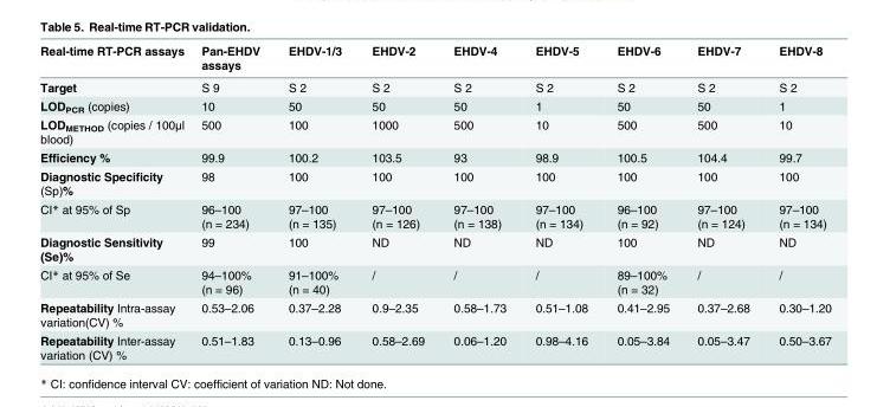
<table><thead><tr><td>Real-time RT-PCR assays</td><td>Pan-EHDV assays</td><td>EHDV-1/3</td><td>EHDV-2</td><td>EHDV-4</td><td>EHDV-5</td><td>EHDV-6</td><td>EHDV-7</td><td>EHDV-8</td></tr></thead><tbody><tr><td>Target</td><td>S 9</td><td>S 2</td><td>S 2</td><td>S 2</td><td>S 2</td><td>S 2</td><td>S 2</td><td>S 2</td></tr><tr><td>LOD<sub>PCR</sub> (copies)</td><td>10</td><td>50</td><td>50</td><td>50</td><td>1</td><td>50</td><td>50</td><td>1</td></tr><tr><td>LOD<sub>METHOD</sub> (copies / 100μl blood)</td><td>500</td><td>100</td><td>1000</td><td>500</td><td>10</td><td>500</td><td>500</td><td>10</td></tr><tr><td>Efficiency %</td><td>99.9</td><td>100.2</td><td>103.5</td><td>93</td><td>98.9</td><td>100.5</td><td>104.4</td><td>99.7</td></tr><tr><td>Diagnostic Specificity (Sp)%</td><td>98</td><td>100</td><td>100</td><td>100</td><td>100</td><td>100</td><td>100</td><td>100</td></tr><tr><td>CI* at 95% of Sp</td><td>96–100 (n = 234)</td><td>97–100 (n = 135)</td><td>97–100 (n = 126)</td><td>97–100 (n = 138)</td><td>97–100 (n = 134)</td><td>96–100 (n = 92)</td><td>97–100 (n = 124)</td><td>97–100 (n = 134)</td></tr><tr><td>Diagnostic Sensitivity (Se)%</td><td>99</td><td>100</td><td>ND</td><td>ND</td><td>ND</td><td>100</td><td>ND</td><td>ND</td></tr><tr><td>CI* at 95% of Se</td><td>94–100% (n = 96)</td><td>91–100% (n = 40)</td><td>/</td><td>/</td><td>/</td><td>89–100% (n = 32)</td><td>/</td><td>/</td></tr><tr><td>Repeatability Intra-assay variation(CV) %</td><td>0.53–2.06</td><td>0.37–2.28</td><td>0.9–2.35</td><td>0.58–1.73</td><td>0.51–1.08</td><td>0.41–2.95</td><td>0.37–2.68</td><td>0.30–1.20</td></tr><tr><td>Repeatability Inter-assay variation (CV) %</td><td>0.51–1.83</td><td>0.13–0.96</td><td>0.58–2.69</td><td>0.06–1.20</td><td>0.98–4.16</td><td>0.05–3.84</td><td>0.05–3.47</td><td>0.50–3.67</td></tr></tbody></table>